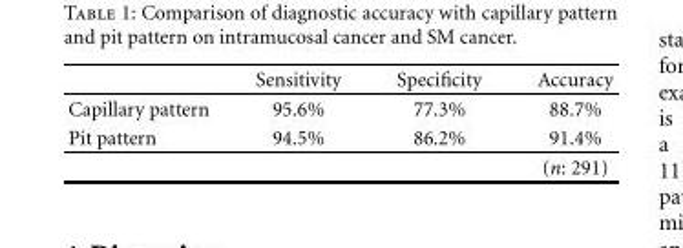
<table><thead><tr><td></td><td>Sensitivity</td><td>Specificity</td><td>Accuracy</td></tr></thead><tbody><tr><td>Capillary pattern</td><td>95.6%</td><td>77.3%</td><td>88.7%</td></tr><tr><td rowspan="2">Pit pattern</td><td>94.5%</td><td>86.2%</td><td>91.4%</td></tr><tr><td></td><td></td><td>(n: 291)</td></tr></tbody></table>